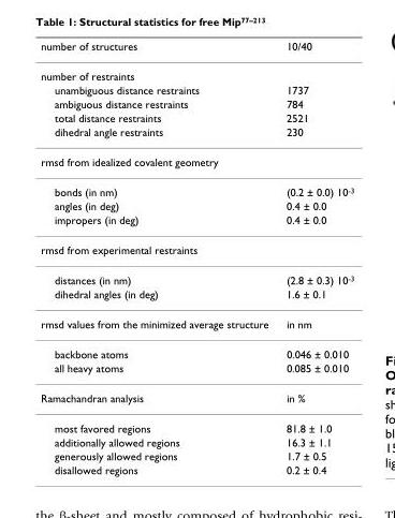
<table><thead><tr><td>number of structures</td><td>10/40</td></tr></thead><tbody><tr><td colspan="2">number of restraints</td></tr><tr><td>unambiguous distance restraints</td><td>1737</td></tr><tr><td>ambiguous distance restraints</td><td>784</td></tr><tr><td>total distance restraints</td><td>2521</td></tr><tr><td>dihedral angle restraints</td><td>230</td></tr><tr><td colspan="2">rmsd from idealized covalent geometry</td></tr><tr><td>bonds (in nm)</td><td>(0.2 ± 0.0) 10<sup>-3</sup></td></tr><tr><td>angles (in deg)</td><td>0.4 ± 0.0</td></tr><tr><td>impropers (in deg)</td><td>0.4 ± 0.0</td></tr><tr><td colspan="2">rmsd from experimental restraints</td></tr><tr><td>distances (in nm)</td><td>(2.8 ± 0.3) 10<sup>-3</sup></td></tr><tr><td>dihedral angles (in deg)</td><td>1.6 ± 0.1</td></tr><tr><td>rmsd values from the minimized average structure</td><td>in nm</td></tr><tr><td>backbone atoms</td><td>0.046 ± 0.010</td></tr><tr><td>all heavy atoms</td><td>0.085 ± 0.010</td></tr><tr><td>Ramachandran analysis</td><td>in %</td></tr><tr><td>most favored regions</td><td>81.8 ± 1.0</td></tr><tr><td>additionally allowed regions</td><td>16.3 ± 1.1</td></tr><tr><td>generously allowed regions</td><td>1.7 ± 0.5</td></tr><tr><td>disallowed regions</td><td>0.2 ± 0.4</td></tr></tbody></table>